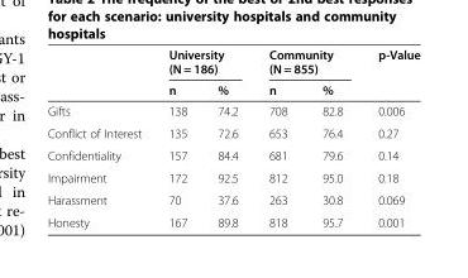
<table><thead><tr><td rowspan="2"></td><td colspan="2">University (N = 186)</td><td colspan="2">Community (N = 855)</td><td rowspan="2">p-Value</td></tr><tr><td>n</td><td>%</td><td>n</td><td>%</td></tr></thead><tbody><tr><td>Gifts</td><td>138</td><td>74.2</td><td>708</td><td>82.8</td><td>0.006</td></tr><tr><td>Conflict of Interest</td><td>135</td><td>72.6</td><td>653</td><td>76.4</td><td>0.27</td></tr><tr><td>Confidentiality</td><td>157</td><td>84.4</td><td>681</td><td>79.6</td><td>0.14</td></tr><tr><td>Impairment</td><td>172</td><td>92.5</td><td>812</td><td>95.0</td><td>0.18</td></tr><tr><td>Harassment</td><td>70</td><td>37.6</td><td>263</td><td>30.8</td><td>0.069</td></tr><tr><td>Honesty</td><td>167</td><td>89.8</td><td>818</td><td>95.7</td><td>0.001</td></tr></tbody></table>